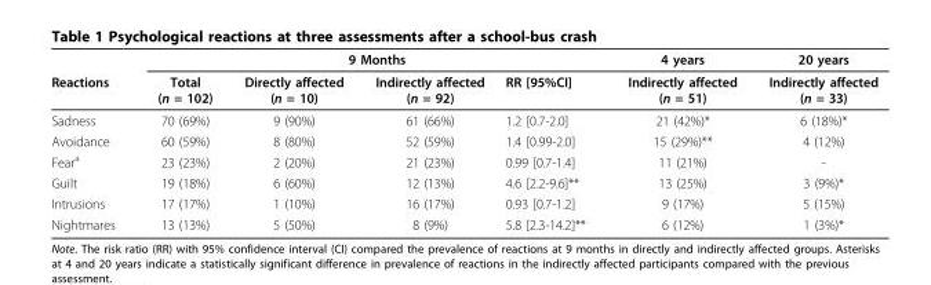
<table><thead><tr><td rowspan="2">Reactions</td><td colspan="4">9 Months</td><td rowspan="2">4 years Indirectly affected (n = 51)</td><td rowspan="2">20 years Indirectly affected (n = 33)</td></tr><tr><td>Total (n = 102)</td><td>Directly affected (n = 10)</td><td>Indirectly affected (n = 92)</td><td>RR [95%CI]</td></tr></thead><tbody><tr><td>Sadness</td><td>70 (69%)</td><td>9 (90%)</td><td>61 (66%)</td><td>1.2 [0.7-2.0]</td><td>21 (42%)*</td><td>6 (18%)*</td></tr><tr><td>Avoidance</td><td>60 (59%)</td><td>8 (80%)</td><td>52 (59%)</td><td>1.4 [0.99-2.0]</td><td>15 (29%)**</td><td>4 (12%)</td></tr><tr><td>Fear<sup>a</sup></td><td>23 (23%)</td><td>2 (20%)</td><td>21 (23%)</td><td>0.99 [0.7-1.4]</td><td>11 (21%)</td><td>-</td></tr><tr><td>Guilt</td><td>19 (18%)</td><td>6 (60%)</td><td>12 (13%)</td><td>4.6 [2.2-9.6]**</td><td>13 (25%)</td><td>3 (9%)*</td></tr><tr><td>Intrusions</td><td>17 (17%)</td><td>1 (10%)</td><td>16 (17%)</td><td>0.93 [0.7-1.2]</td><td>9 (17%)</td><td>5 (15%)</td></tr><tr><td>Nightmares</td><td>13 (13%)</td><td>5 (50%)</td><td>8 (9%)</td><td>5.8 [2.3-14.2]**</td><td>6 (12%)</td><td>1 (3%)*</td></tr></tbody></table>